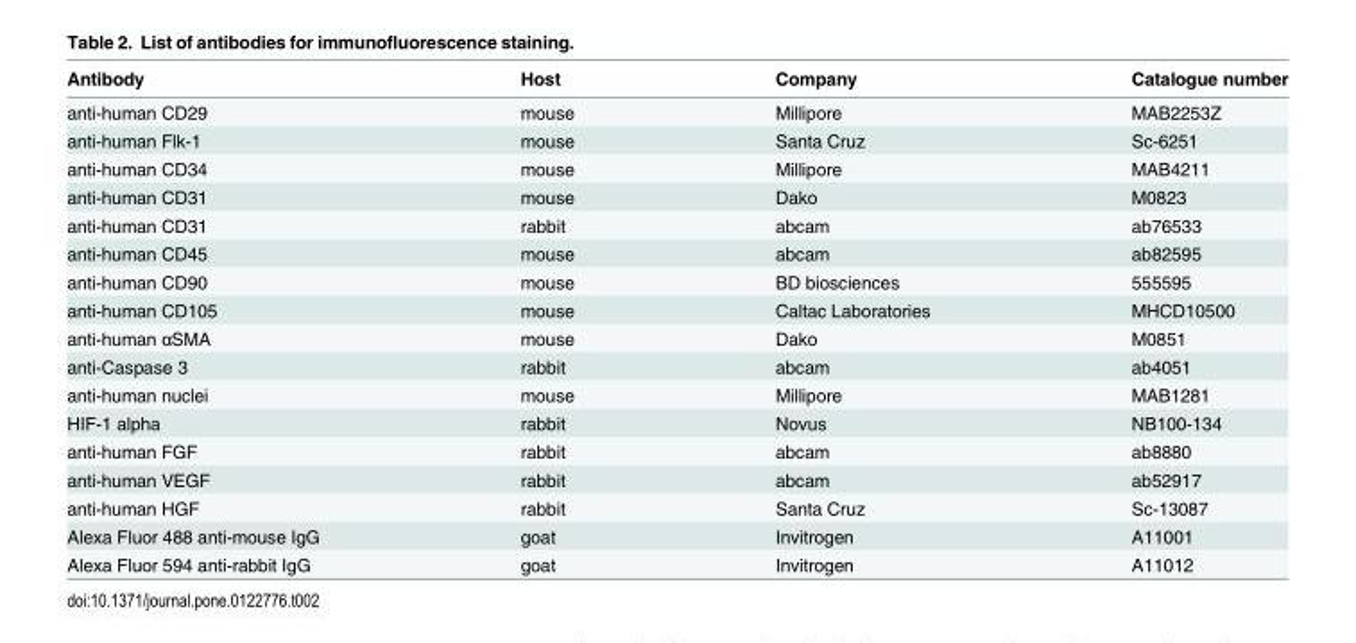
<table><thead><tr><td>Antibody</td><td>Host</td><td>Company</td><td>Catalogue number</td></tr></thead><tbody><tr><td>anti-human CD29</td><td>mouse</td><td>Millipore</td><td>MAB2253Z</td></tr><tr><td>anti-human Flk-1</td><td>mouse</td><td>Santa Cruz</td><td>Sc-6251</td></tr><tr><td>anti-human CD34</td><td>mouse</td><td>Millipore</td><td>MAB4211</td></tr><tr><td>anti-human CD31</td><td>mouse</td><td>Dako</td><td>M0823</td></tr><tr><td>anti-human CD31</td><td>rabbit</td><td>abcam</td><td>ab76533</td></tr><tr><td>anti-human CD45</td><td>mouse</td><td>abcam</td><td>ab82595</td></tr><tr><td>anti-human CD90</td><td>mouse</td><td>BD biosciences</td><td>555595</td></tr><tr><td>anti-human CD105</td><td>mouse</td><td>Caltac Laboratories</td><td>MHCD10500</td></tr><tr><td>anti-human αSMA</td><td>mouse</td><td>Dako</td><td>M0851</td></tr><tr><td>anti-Caspase 3</td><td>rabbit</td><td>abcam</td><td>ab4051</td></tr><tr><td>anti-human nuclei</td><td>mouse</td><td>Millipore</td><td>MAB1281</td></tr><tr><td>HIF-1 alpha</td><td>rabbit</td><td>Novus</td><td>NB100-134</td></tr><tr><td>anti-human FGF</td><td>rabbit</td><td>abcam</td><td>ab8880</td></tr><tr><td>anti-human VEGF</td><td>rabbit</td><td>abcam</td><td>ab52917</td></tr><tr><td>anti-human HGF</td><td>rabbit</td><td>Santa Cruz</td><td>Sc-13087</td></tr><tr><td>Alexa Fluor 488 anti-mouse IgG</td><td>goat</td><td>Invitrogen</td><td>A11001</td></tr><tr><td>Alexa Fluor 594 anti-rabbit IgG</td><td>goat</td><td>Invitrogen</td><td>A11012</td></tr></tbody></table>